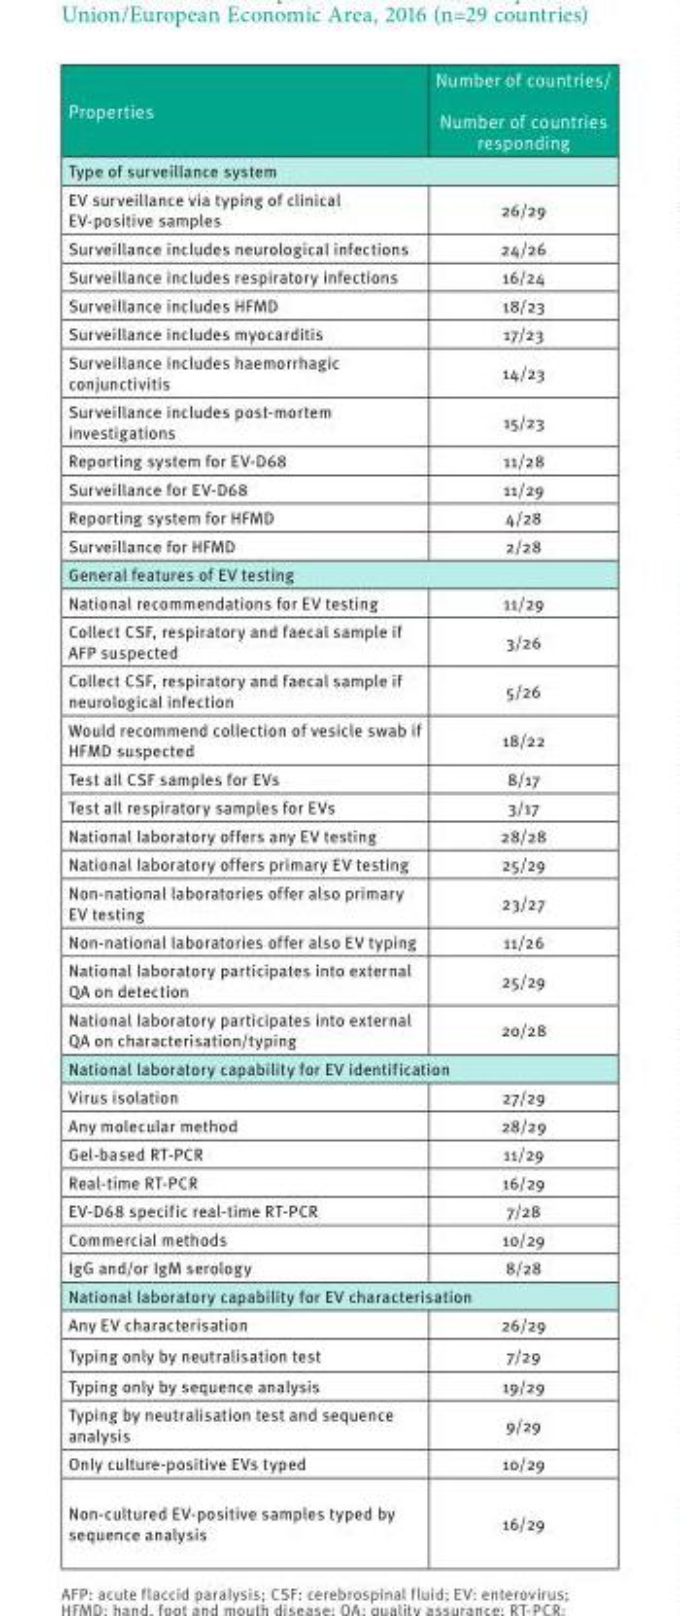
<table><thead><tr><td>Properties</td><td>Number of countries/ Number of countries responding</td></tr></thead><tbody><tr><td colspan="2">Type of surveillance system</td></tr><tr><td>EV surveillance via typing of clinical EV-positive samples</td><td>26/29</td></tr><tr><td>Surveillance includes neurological infections</td><td>24/26</td></tr><tr><td>Surveillance includes respiratory infections</td><td>16/24</td></tr><tr><td>Surveillance includes HFMD</td><td>18/23</td></tr><tr><td>Surveillance includes myocarditis</td><td>17/23</td></tr><tr><td>Surveillance includes haemorrhagic conjunctivitis</td><td>14/23</td></tr><tr><td>Surveillance includes post-mortem investigations</td><td>15/23</td></tr><tr><td>Reporting system for EV-D68</td><td>11/28</td></tr><tr><td>Surveillance for EV-D68</td><td>11/29</td></tr><tr><td>Reporting system for HFMD</td><td>4/28</td></tr><tr><td>Surveillance for HFMD</td><td>2/28</td></tr><tr><td colspan="2">General features of EV testing</td></tr><tr><td>National recommendations for EV testing</td><td>11/29</td></tr><tr><td>Collect CSF, respiratory and faecal sample if AFP suspected</td><td>3/26</td></tr><tr><td>Collect CSF, respiratory and faecal sample if neurological infection</td><td>5/26</td></tr><tr><td>Would recommend collection of vesicle swab if HFMD suspected</td><td>18/22</td></tr><tr><td>Test all CSF samples for EVs</td><td>8/17</td></tr><tr><td>Test all respiratory samples for EVs</td><td>3/17</td></tr><tr><td>National laboratory offers any EV testing</td><td>28/28</td></tr><tr><td>National laboratory offers primary EV testing</td><td>25/29</td></tr><tr><td>Non-national laboratories offer also primary EV testing</td><td>23/27</td></tr><tr><td>Non-national laboratories offer also EV typing</td><td>11/26</td></tr><tr><td>National laboratory participates into external QA on detection</td><td>25/29</td></tr><tr><td>National laboratory participates into external QA on characterisation/typing</td><td>20/28</td></tr><tr><td colspan="2">National laboratory capability for EV identification</td></tr><tr><td>Virus isolation</td><td>27/29</td></tr><tr><td>Any molecular method</td><td>28/29</td></tr><tr><td>Gel-based RT-PCR</td><td>11/29</td></tr><tr><td>Real-time RT-PCR</td><td>16/29</td></tr><tr><td>EV-D68 specific real-time RT-PCR</td><td>7/28</td></tr><tr><td>Commercial methods</td><td>10/29</td></tr><tr><td>IgG and/or IgM serology</td><td>8/28</td></tr><tr><td colspan="2">National laboratory capability for EV characterisation</td></tr><tr><td>Any EV characterisation</td><td>26/29</td></tr><tr><td>Typing only by neutralisation test</td><td>7/29</td></tr><tr><td>Typing only by sequence analysis</td><td>19/29</td></tr><tr><td>Typing by neutralisation test and sequence analysis</td><td>9/29</td></tr><tr><td>Only culture-positive EVs typed</td><td>10/29</td></tr><tr><td>Non-cultured EV-positive samples typed by sequence analysis</td><td>16/29</td></tr></tbody></table>